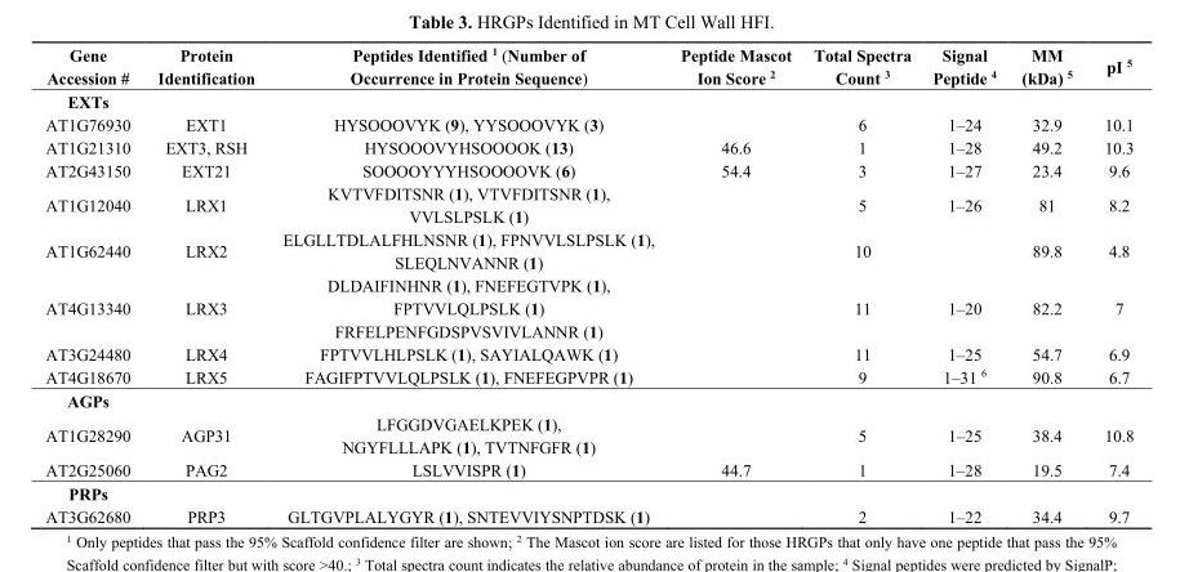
<table><thead><tr><td>Gene Accession #</td><td>Protein Identification</td><td>Peptides Identified <sup>1</sup> (Number of Occurrence in Protein Sequence)</td><td>Peptide Mascot Ion Score <sup>2</sup></td><td>Total Spectra Count <sup>3</sup></td><td>Signal Peptide <sup>4</sup></td><td>MM (kDa) <sup>5</sup></td><td>pI <sup>5</sup></td></tr></thead><tbody><tr><td colspan="8">EXTs</td></tr><tr><td>AT1G76930</td><td>EXT1</td><td>HYSOOOVYK (9), YYSOOOVYK (3)</td><td></td><td>6</td><td>1–24</td><td>32.9</td><td>10.1</td></tr><tr><td>AT1G21310</td><td>EXT3, RSH</td><td>HYSOOOVYHSOOOOK (13)</td><td>46.6</td><td>1</td><td>1–28</td><td>49.2</td><td>10.3</td></tr><tr><td>AT2G43150</td><td>EXT21</td><td>SOOOOYYYHSOOOOVK (6)</td><td>54.4</td><td>3</td><td>1–27</td><td>23.4</td><td>9.6</td></tr><tr><td>AT1G12040</td><td>LRX1</td><td>KVTVFDITSNR (1), VTVFDITSNR (1), VVLSLPSLK (1)</td><td></td><td>5</td><td>1–26</td><td>81</td><td>8.2</td></tr><tr><td>AT1G62440</td><td>LRX2</td><td>ELGLLTDLALFHLNSNR (1), FPNVVLSLPSLK (1), SLEQLNVANNR (1)</td><td></td><td>10</td><td></td><td>89.8</td><td>4.8</td></tr><tr><td rowspan="2">AT4G13340</td><td rowspan="2">LRX3</td><td>DLDAIFINHNR (1), FNEFEGTVPK (1), FPTVVLQLPSLK (1)</td><td rowspan="2"></td><td rowspan="2">11</td><td rowspan="2">1–20</td><td rowspan="2">82.2</td><td rowspan="2">7</td></tr><tr><td>FRFELPENFGDSPVSVIVLANNR (1)</td></tr><tr><td>AT3G24480</td><td>LRX4</td><td>FPTVVLHLPSLK (1), SAYIALQAWK (1)</td><td></td><td>11</td><td>1–25</td><td>54.7</td><td>6.9</td></tr><tr><td>AT4G18670</td><td>LRX5</td><td>FAGIFPTVVLQLPSLK (1), FNEFEGPVPR (1)</td><td></td><td>9</td><td>1–31 <sup>6</sup></td><td>90.8</td><td>6.7</td></tr><tr><td colspan="8">AGPs</td></tr><tr><td>AT1G28290</td><td>AGP31</td><td>LFGGDVGAELKPEK (1), NGYFLLLAPK (1), TVTNFGFR (1)</td><td></td><td>5</td><td>1–25</td><td>38.4</td><td>10.8</td></tr><tr><td>AT2G25060</td><td>PAG2</td><td>LSLVVISPR (1)</td><td>44.7</td><td>1</td><td>1–28</td><td>19.5</td><td>7.4</td></tr><tr><td colspan="8">PRPs</td></tr><tr><td>AT3G62680</td><td>PRP3</td><td>GLTGVPLALYGYR (1), SNTEVVIYSNPTDSK (1)</td><td></td><td>2</td><td>1–22</td><td>34.4</td><td>9.7</td></tr></tbody></table>